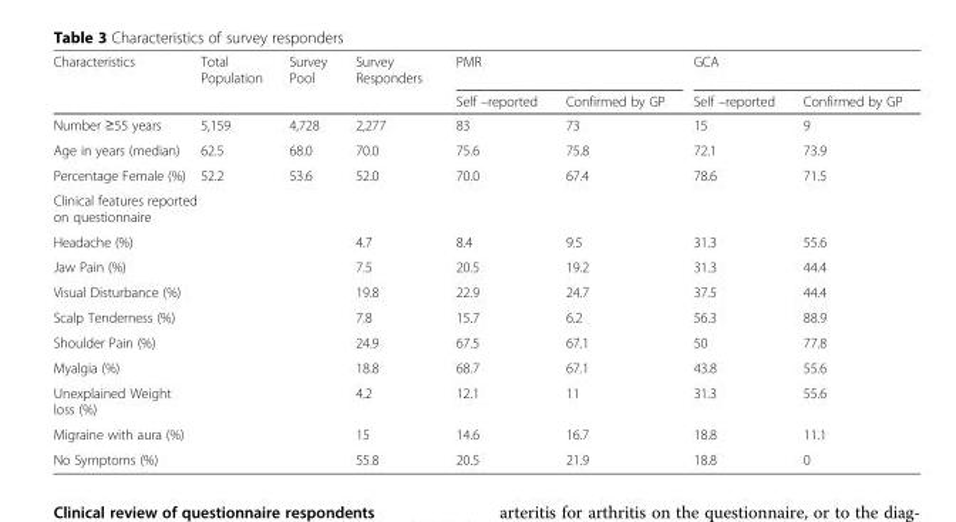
<table><thead><tr><td rowspan="2">Characteristics</td><td rowspan="2">Total Population</td><td rowspan="2">Survey Pool</td><td rowspan="2">Survey Responders</td><td colspan="2">PMR</td><td colspan="2">GCA</td></tr><tr><td>Self –reported</td><td>Confirmed by GP</td><td>Self –reported</td><td>Confirmed by GP</td></tr></thead><tbody><tr><td>Number ≥55 years</td><td>5,159</td><td>4,728</td><td>2,277</td><td>83</td><td>73</td><td>15</td><td>9</td></tr><tr><td>Age in years (median)</td><td>62.5</td><td>68.0</td><td>70.0</td><td>75.6</td><td>75.8</td><td>72.1</td><td>73.9</td></tr><tr><td>Percentage Female (%)</td><td>52.2</td><td>53.6</td><td>52.0</td><td>70.0</td><td>67.4</td><td>78.6</td><td>71.5</td></tr><tr><td colspan="8">Clinical features reported on questionnaire</td></tr><tr><td>Headache (%)</td><td></td><td></td><td>4.7</td><td>8.4</td><td>9.5</td><td>31.3</td><td>55.6</td></tr><tr><td>Jaw Pain (%)</td><td></td><td></td><td>7.5</td><td>20.5</td><td>19.2</td><td>31.3</td><td>44.4</td></tr><tr><td>Visual Disturbance (%)</td><td></td><td></td><td>19.8</td><td>22.9</td><td>24.7</td><td>37.5</td><td>44.4</td></tr><tr><td>Scalp Tenderness (%)</td><td></td><td></td><td>7.8</td><td>15.7</td><td>6.2</td><td>56.3</td><td>88.9</td></tr><tr><td>Shoulder Pain (%)</td><td></td><td></td><td>24.9</td><td>67.5</td><td>67.1</td><td>50</td><td>77.8</td></tr><tr><td>Myalgia (%)</td><td></td><td></td><td>18.8</td><td>68.7</td><td>67.1</td><td>43.8</td><td>55.6</td></tr><tr><td>Unexplained Weight loss (%)</td><td></td><td></td><td>4.2</td><td>12.1</td><td>11</td><td>31.3</td><td>55.6</td></tr><tr><td>Migraine with aura (%)</td><td></td><td></td><td>15</td><td>14.6</td><td>16.7</td><td>18.8</td><td>11.1</td></tr><tr><td>No Symptoms (%)</td><td></td><td></td><td>55.8</td><td>20.5</td><td>21.9</td><td>18.8</td><td>0</td></tr></tbody></table>